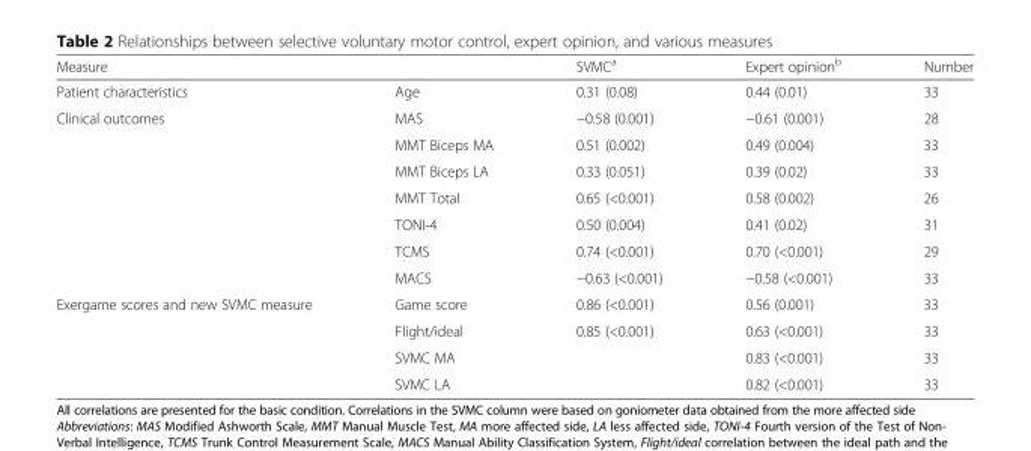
<table><thead><tr><td>Measure</td><td></td><td>SVMC<sup>a</sup></td><td>Expert opinion<sup>b</sup></td><td>Number</td></tr></thead><tbody><tr><td>Patient characteristics</td><td>Age</td><td>0.31 (0.08)</td><td>0.44 (0.01)</td><td>33</td></tr><tr><td rowspan="7">Clinical outcomes</td><td>MAS</td><td>−0.58 (0.001)</td><td>−0.61 (0.001)</td><td>28</td></tr><tr><td>MMT Biceps MA</td><td>0.51 (0.002)</td><td>0.49 (0.004)</td><td>33</td></tr><tr><td>MMT Biceps LA</td><td>0.33 (0.051)</td><td>0.39 (0.02)</td><td>33</td></tr><tr><td>MMT Total</td><td>0.65 (&lt;0.001)</td><td>0.58 (0.002)</td><td>26</td></tr><tr><td>TONI-4</td><td>0.50 (0.004)</td><td>0.41 (0.02)</td><td>31</td></tr><tr><td>TCMS</td><td>0.74 (&lt;0.001)</td><td>0.70 (&lt;0.001)</td><td>29</td></tr><tr><td>MACS</td><td>−0.63 (&lt;0.001)</td><td>−0.58 (&lt;0.001)</td><td>33</td></tr><tr><td rowspan="4">Exergame scores and new SVMC measure</td><td>Game score</td><td>0.86 (&lt;0.001)</td><td>0.56 (0.001)</td><td>33</td></tr><tr><td>Flight/ideal</td><td>0.85 (&lt;0.001)</td><td>0.63 (&lt;0.001)</td><td>33</td></tr><tr><td>SVMC MA</td><td></td><td>0.83 (&lt;0.001)</td><td>33</td></tr><tr><td>SVMC LA</td><td></td><td>0.82 (&lt;0.001)</td><td>33</td></tr></tbody></table>